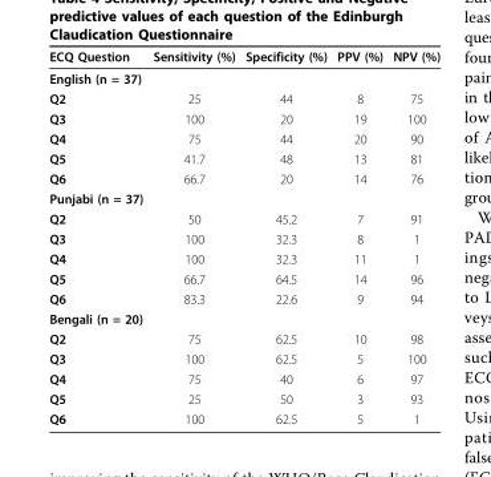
<table><thead><tr><td>ECQ Question</td><td>Sensitivity (%)</td><td>Specificity (%)</td><td>PPV (%)</td><td>NPV (%)</td></tr></thead><tbody><tr><td colspan="5">English (n = 37)</td></tr><tr><td>Q2</td><td>25</td><td>44</td><td>8</td><td>75</td></tr><tr><td>Q3</td><td>100</td><td>20</td><td>19</td><td>100</td></tr><tr><td>Q4</td><td>75</td><td>44</td><td>20</td><td>90</td></tr><tr><td>Q5</td><td>41.7</td><td>48</td><td>13</td><td>81</td></tr><tr><td>Q6</td><td>66.7</td><td>20</td><td>14</td><td>76</td></tr><tr><td colspan="5">Punjabi (n = 37)</td></tr><tr><td>Q2</td><td>50</td><td>45.2</td><td>7</td><td>91</td></tr><tr><td>Q3</td><td>100</td><td>32.3</td><td>8</td><td>1</td></tr><tr><td>Q4</td><td>100</td><td>32.3</td><td>11</td><td>1</td></tr><tr><td>Q5</td><td>66.7</td><td>64.5</td><td>14</td><td>96</td></tr><tr><td>Q6</td><td>83.3</td><td>22.6</td><td>9</td><td>94</td></tr><tr><td colspan="5">Bengali (n = 20)</td></tr><tr><td>Q2</td><td>75</td><td>62.5</td><td>10</td><td>98</td></tr><tr><td>Q3</td><td>100</td><td>62.5</td><td>5</td><td>100</td></tr><tr><td>Q4</td><td>75</td><td>40</td><td>6</td><td>97</td></tr><tr><td>Q5</td><td>25</td><td>50</td><td>3</td><td>93</td></tr><tr><td>Q6</td><td>100</td><td>62.5</td><td>5</td><td>1</td></tr></tbody></table>